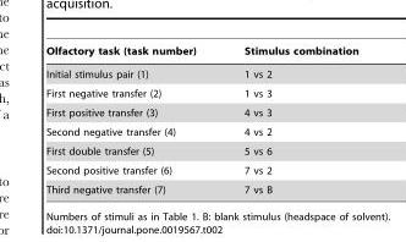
<table><thead><tr><td>Olfactory task (task number)</td><td>Stimulus combination</td></tr></thead><tbody><tr><td>Initial stimulus pair (1)</td><td>1 vs 2</td></tr><tr><td>First negative transfer (2)</td><td>1 vs 3</td></tr><tr><td>First positive transfer (3)</td><td>4 vs 3</td></tr><tr><td>Second negative transfer (4)</td><td>4 vs 2</td></tr><tr><td>First double transfer (5)</td><td>5 vs 6</td></tr><tr><td>Second positive transfer (6)</td><td>7 vs 2</td></tr><tr><td>Third negative transfer (7)</td><td>7 vs B</td></tr></tbody></table>